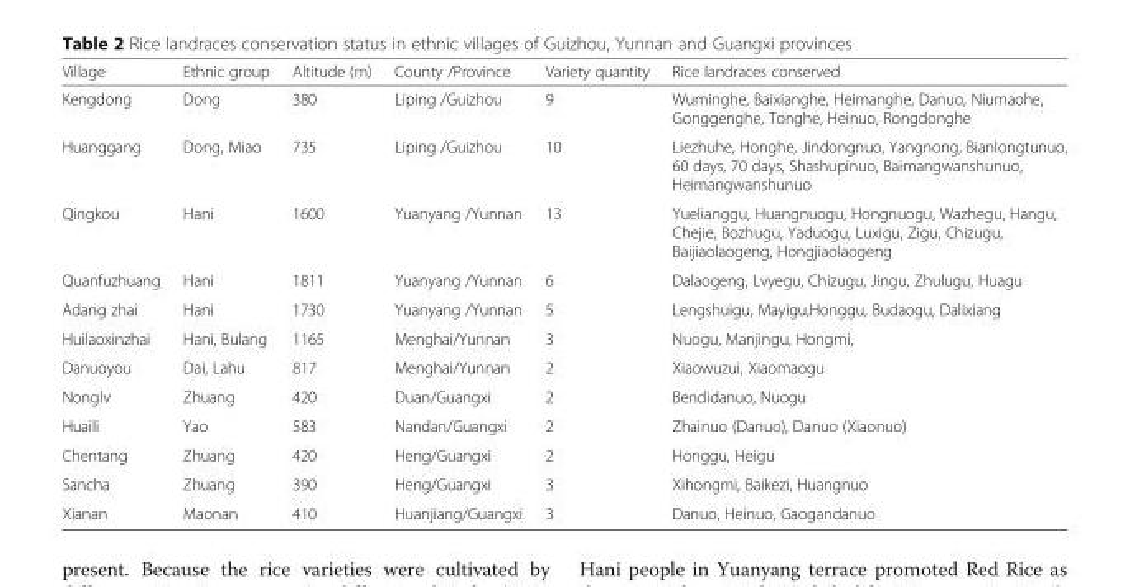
<table><thead><tr><td>Village</td><td>Ethnic group</td><td>Altitude (m)</td><td>County /Province</td><td>Variety quantity</td><td>Rice landraces conserved</td></tr></thead><tbody><tr><td>Kengdong</td><td>Dong</td><td>380</td><td>Liping /Guizhou</td><td>9</td><td>Wuminghe, Baixianghe, Heimanghe, Danuo, Niumaohe, Gonggenghe, Tonghe, Heinuo, Rongdonghe</td></tr><tr><td>Huanggang</td><td>Dong, Miao</td><td>735</td><td>Liping /Guizhou</td><td>10</td><td>Liezhuhe, Honghe, Jindongnuo, Yangnong, Bianlongtunuo, 60 days, 70 days, Shashupinuo, Baimangwanshunuo, Heimangwanshunuo</td></tr><tr><td>Qingkou</td><td>Hani</td><td>1600</td><td>Yuanyang /Yunnan</td><td>13</td><td>Yuelianggu, Huangnuogu, Hongnuogu, Wazhegu, Hangu, Chejie, Bozhugu, Yaduogu, Luxigu, Zigu, Chizugu, Baijiaolaogeng, Hongjiaolaogeng</td></tr><tr><td>Quanfuzhuang</td><td>Hani</td><td>1811</td><td>Yuanyang /Yunnan</td><td>6</td><td>Dalaogeng, Lvyegu, Chizugu, Jingu, Zhulugu, Huagu</td></tr><tr><td>Adang zhai</td><td>Hani</td><td>1730</td><td>Yuanyang /Yunnan</td><td>5</td><td>Lengshuigu, Mayigu,Honggu, Budaogu, Dalixiang</td></tr><tr><td>Huilaoxinzhai</td><td>Hani, Bulang</td><td>1165</td><td>Menghai/Yunnan</td><td>3</td><td>Nuogu, Manjingu, Hongmi,</td></tr><tr><td>Danuoyou</td><td>Dai, Lahu</td><td>817</td><td>Menghai/Yunnan</td><td>2</td><td>Xiaowuzui, Xiaomaogu</td></tr><tr><td>Nonglv</td><td>Zhuang</td><td>420</td><td>Duan/Guangxi</td><td>2</td><td>Bendidanuo, Nuogu</td></tr><tr><td>Huaili</td><td>Yao</td><td>583</td><td>Nandan/Guangxi</td><td>2</td><td>Zhainuo (Danuo), Danuo (Xiaonuo)</td></tr><tr><td>Chentang</td><td>Zhuang</td><td>420</td><td>Heng/Guangxi</td><td>2</td><td>Honggu, Heigu</td></tr><tr><td>Sancha</td><td>Zhuang</td><td>390</td><td>Heng/Guangxi</td><td>3</td><td>Xihongmi, Baikezi, Huangnuo</td></tr><tr><td>Xianan</td><td>Maonan</td><td>410</td><td>Huanjiang/Guangxi</td><td>3</td><td>Danuo, Heinuo, Gaogandanuo</td></tr></tbody></table>